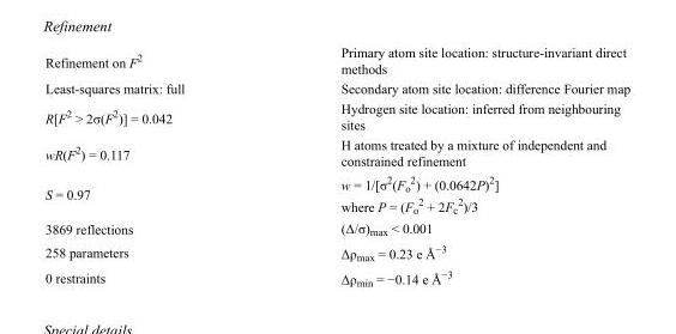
<table><tbody><tr><td>Refinement on F<sup>2</sup></td><td>Primary atom site location: structure-invariant direct methods</td></tr><tr><td>Least-squares matrix: full</td><td>Secondary atom site location: difference Fourier map</td></tr><tr><td>R[F<sup>2</sup> &gt; 2σ(F<sup>2</sup>)] = 0.042</td><td>Hydrogen site location: inferred from neighbouring sites</td></tr><tr><td>wR(F<sup>2</sup>) = 0.117</td><td>H atoms treated by a mixture of independent and constrained refinement</td></tr><tr><td>S = 0.97</td><td>w = 1/[σ<sup>2</sup>(F<sub>o</sub> <sup>2</sup>) + (0.0642P)<sup>2</sup>] where P = (F<sub>o</sub> <sup>2</sup> + 2F<sub>c</sub> <sup>2</sup>)/3</td></tr><tr><td>3869 reflections</td><td>(Δ/σ)<sub>max</sub> &lt; 0.001</td></tr><tr><td>258 parameters</td><td>Δρ<sub>max</sub> = 0.23 e Å<sup>−3</sup></td></tr><tr><td>0 restraints</td><td>Δρ<sub>min</sub> = −0.14 e Å<sup>−3</sup></td></tr></tbody></table>